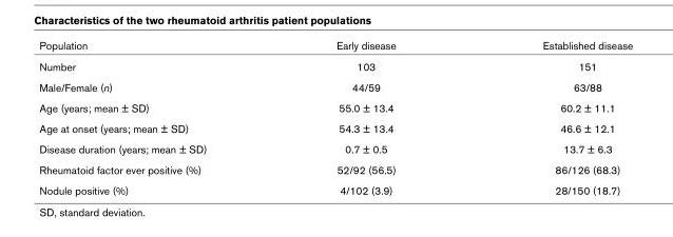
<table><thead><tr><td>Population</td><td>Early disease</td><td>Established disease</td></tr></thead><tbody><tr><td>Number</td><td>103</td><td>151</td></tr><tr><td>Male/Female (n)</td><td>44/59</td><td>63/88</td></tr><tr><td>Age (years; mean ± SD)</td><td>55.0 ± 13.4</td><td>60.2 ± 11.1</td></tr><tr><td>Age at onset (years; mean ± SD)</td><td>54.3 ± 13.4</td><td>46.6 ± 12.1</td></tr><tr><td>Disease duration (years; mean ± SD)</td><td>0.7 ± 0.5</td><td>13.7 ± 6.3</td></tr><tr><td>Rheumatoid factor ever positive (%)</td><td>52/92 (56.5)</td><td>86/126 (68.3)</td></tr><tr><td>Nodule positive (%)</td><td>4/102 (3.9)</td><td>28/150 (18.7)</td></tr></tbody></table>